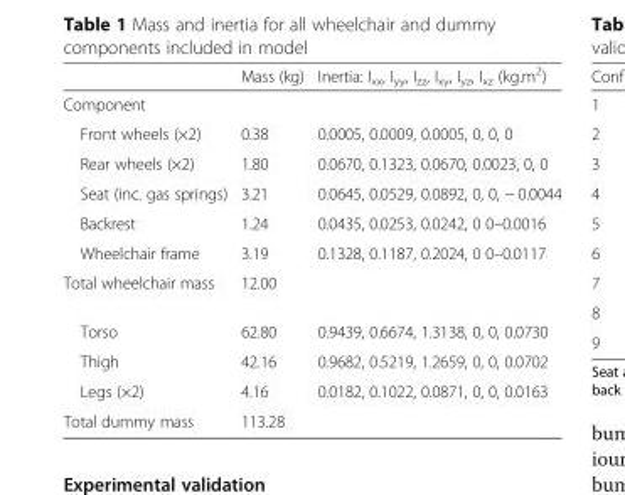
<table><thead><tr><td></td><td>Mass (kg)</td><td>Inertia: I<sub>xx</sub>, I<sub>yy</sub>, I<sub>zz</sub>, I<sub>xy</sub>, I<sub>yz</sub>, I<sub>xz</sub> (kg.m<sup>2</sup>)</td></tr></thead><tbody><tr><td colspan="3">Component</td></tr><tr><td>Front wheels (×2)</td><td>0.38</td><td>0.0005, 0.0009, 0.0005, 0, 0, 0</td></tr><tr><td>Rear wheels (×2)</td><td>1.80</td><td>0.0670, 0.1323, 0.0670, 0.0023, 0, 0</td></tr><tr><td>Seat (inc. gas springs)</td><td>3.21</td><td>0.0645, 0.0529, 0.0892, 0, 0, − 0.0044</td></tr><tr><td>Backrest</td><td>1.24</td><td>0.0435, 0.0253, 0.0242, 0 0–0.0016</td></tr><tr><td>Wheelchair frame</td><td>3.19</td><td>0.1328, 0.1187, 0.2024, 0 0–0.0117</td></tr><tr><td>Total wheelchair mass</td><td>12.00</td><td></td></tr><tr><td>Torso</td><td>62.80</td><td>0.9439, 0.6674, 1.3138, 0, 0, 0.0730</td></tr><tr><td>Thigh</td><td>42.16</td><td>0.9682, 0.5219, 1.2659, 0, 0, 0.0702</td></tr><tr><td>Legs (×2)</td><td>4.16</td><td>0.0182, 0.1022, 0.0871, 0, 0, 0.0163</td></tr><tr><td>Total dummy mass</td><td>113.28</td><td></td></tr></tbody></table>